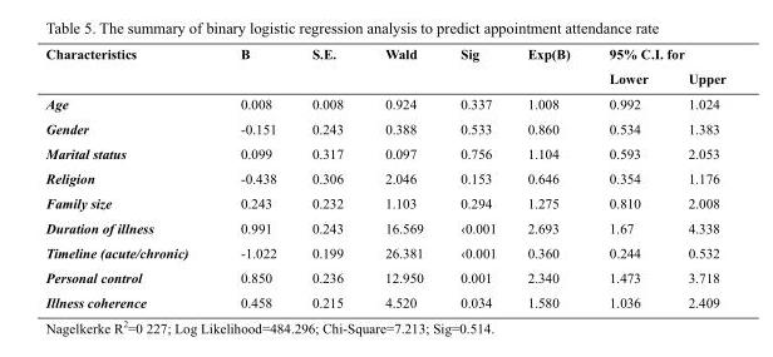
<table><thead><tr><td rowspan="2">Characteristics</td><td rowspan="2">B</td><td rowspan="2">S.E.</td><td rowspan="2">Wald</td><td rowspan="2">Sig</td><td rowspan="2">Exp(B)</td><td colspan="2">95% C.I. for</td></tr><tr><td>Lower</td><td>Upper</td></tr></thead><tbody><tr><td>Age</td><td>0.008</td><td>0.008</td><td>0.924</td><td>0.337</td><td>1.008</td><td>0.992</td><td>1.024</td></tr><tr><td>Gender</td><td>-0.151</td><td>0.243</td><td>0.388</td><td>0.533</td><td>0.860</td><td>0.534</td><td>1.383</td></tr><tr><td>Marital status</td><td>0.099</td><td>0.317</td><td>0.097</td><td>0.756</td><td>1.104</td><td>0.593</td><td>2.053</td></tr><tr><td>Religion</td><td>-0.438</td><td>0.306</td><td>2.046</td><td>0.153</td><td>0.646</td><td>0.354</td><td>1.176</td></tr><tr><td>Family size</td><td>0.243</td><td>0.232</td><td>1.103</td><td>0.294</td><td>1.275</td><td>0.810</td><td>2.008</td></tr><tr><td>Duration of illness</td><td>0.991</td><td>0.243</td><td>16.569</td><td>‹0.001</td><td>2.693</td><td>1.67</td><td>4.338</td></tr><tr><td>Timeline (acute/chronic)</td><td>-1.022</td><td>0.199</td><td>26.381</td><td>‹0.001</td><td>0.360</td><td>0.244</td><td>0.532</td></tr><tr><td>Personal control</td><td>0.850</td><td>0.236</td><td>12.950</td><td>0.001</td><td>2.340</td><td>1.473</td><td>3.718</td></tr><tr><td>Illness coherence</td><td>0.458</td><td>0.215</td><td>4.520</td><td>0.034</td><td>1.580</td><td>1.036</td><td>2.409</td></tr></tbody></table>